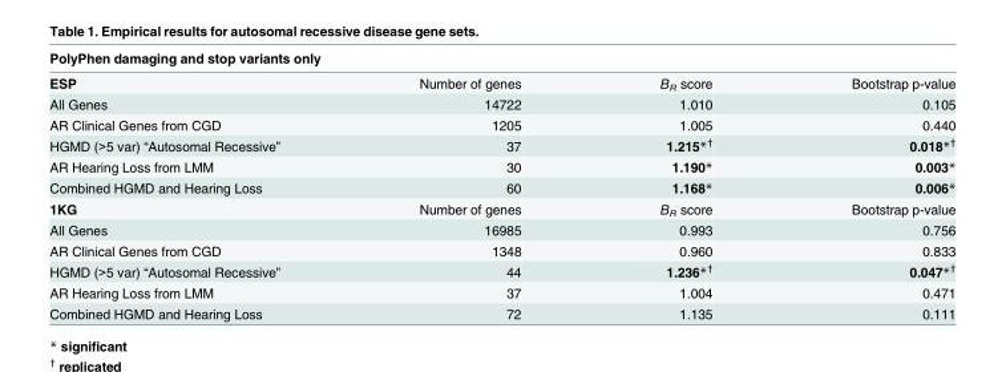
<table><thead><tr><td colspan="4">PolyPhen damaging and stop variants only</td></tr><tr><td>ESP</td><td>Number of genes</td><td>B<sub>R</sub> score</td><td>Bootstrap p-value</td></tr></thead><tbody><tr><td>All Genes</td><td>14722</td><td>1.010</td><td>0.105</td></tr><tr><td>AR Clinical Genes from CGD</td><td>1205</td><td>1.005</td><td>0.440</td></tr><tr><td>HGMD (&gt;5 var) “Autosomal Recessive”</td><td>37</td><td>1.215*<sup>†</sup></td><td>0.018*<sup>†</sup></td></tr><tr><td>AR Hearing Loss from LMM</td><td>30</td><td>1.190*</td><td>0.003*</td></tr><tr><td>Combined HGMD and Hearing Loss</td><td>60</td><td>1.168*</td><td>0.006*</td></tr><tr><td>1KG</td><td>Number of genes</td><td>B<sub>R</sub> score</td><td>Bootstrap p-value</td></tr><tr><td>All Genes</td><td>16985</td><td>0.993</td><td>0.756</td></tr><tr><td>AR Clinical Genes from CGD</td><td>1348</td><td>0.960</td><td>0.833</td></tr><tr><td>HGMD (&gt;5 var) “Autosomal Recessive”</td><td>44</td><td>1.236*<sup>†</sup></td><td>0.047*<sup>†</sup></td></tr><tr><td>AR Hearing Loss from LMM</td><td>37</td><td>1.004</td><td>0.471</td></tr><tr><td>Combined HGMD and Hearing Loss</td><td>72</td><td>1.135</td><td>0.111</td></tr></tbody></table>